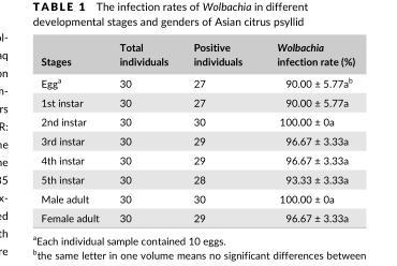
<table><thead><tr><td>Stages</td><td>Total individuals</td><td>Positive individuals</td><td>Wolbachia infection rate (%)</td></tr></thead><tbody><tr><td>Egg<sup>a</sup></td><td>30</td><td>27</td><td>90.00 ± 5.77a<sup>b</sup></td></tr><tr><td>1st instar</td><td>30</td><td>27</td><td>90.00 ± 5.77a</td></tr><tr><td>2nd instar</td><td>30</td><td>30</td><td>100.00 ± 0a</td></tr><tr><td>3rd instar</td><td>30</td><td>29</td><td>96.67 ± 3.33a</td></tr><tr><td>4th instar</td><td>30</td><td>29</td><td>96.67 ± 3.33a</td></tr><tr><td>5th instar</td><td>30</td><td>28</td><td>93.33 ± 3.33a</td></tr><tr><td>Male adult</td><td>30</td><td>30</td><td>100.00 ± 0a</td></tr><tr><td>Female adult</td><td>30</td><td>29</td><td>96.67 ± 3.33a</td></tr></tbody></table>